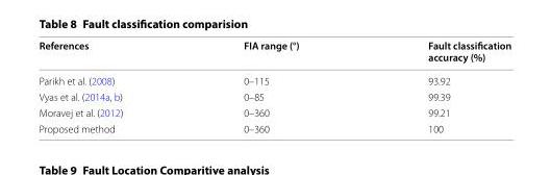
<table><thead><tr><td>References</td><td>FIA range (°)</td><td>Fault classification accuracy (%)</td></tr></thead><tbody><tr><td>Parikh et al. (2008)</td><td>0–115</td><td>93.92</td></tr><tr><td>Vyas et al. (2014a, b)</td><td>0–85</td><td>99.39</td></tr><tr><td>Moravej et al. (2012)</td><td>0–360</td><td>99.21</td></tr><tr><td>Proposed method</td><td>0–360</td><td>100</td></tr></tbody></table>